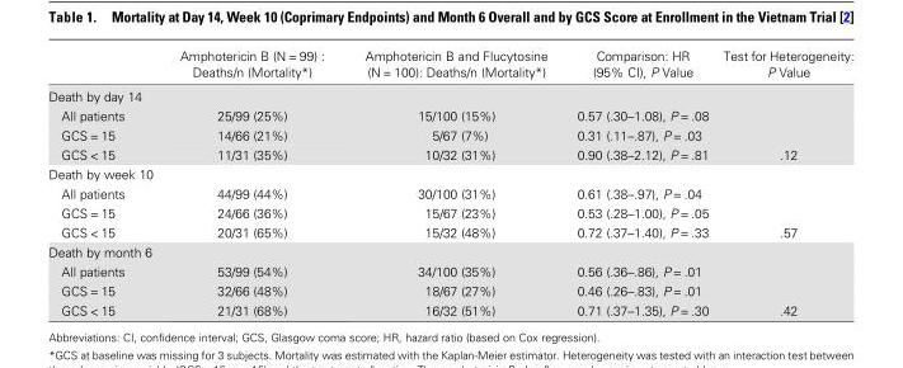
<table><thead><tr><td></td><td>Amphotericin B (N = 99) : Deaths/n (Mortality*)</td><td>Amphotericin B and Flucytosine (N = 100): Deaths/n (Mortality*)</td><td>Comparison: HR (95% CI), P Value</td><td>Test for Heterogeneity: P Value</td></tr></thead><tbody><tr><td colspan="5">Death by day 14</td></tr><tr><td>All patients</td><td>25/99 (25%)</td><td>15/100 (15%)</td><td>0.57 (.30–1.08), P = .08</td><td></td></tr><tr><td>GCS = 15</td><td>14/66 (21%)</td><td>5/67 (7%)</td><td>0.31 (.11–.87), P = .03</td><td></td></tr><tr><td>GCS &lt; 15</td><td>11/31 (35%)</td><td>10/32 (31%)</td><td>0.90 (.38–2.12), P = .81</td><td>.12</td></tr><tr><td colspan="5">Death by week 10</td></tr><tr><td>All patients</td><td>44/99 (44%)</td><td>30/100 (31%)</td><td>0.61 (.38–.97), P = .04</td><td></td></tr><tr><td>GCS = 15</td><td>24/66 (36%)</td><td>15/67 (23%)</td><td>0.53 (.28–1.00), P = .05</td><td></td></tr><tr><td>GCS &lt; 15</td><td>20/31 (65%)</td><td>15/32 (48%)</td><td>0.72 (.37–1.40), P = .33</td><td>.57</td></tr><tr><td colspan="5">Death by month 6</td></tr><tr><td>All patients</td><td>53/99 (54%)</td><td>34/100 (35%)</td><td>0.56 (.36–.86), P = .01</td><td></td></tr><tr><td>GCS = 15</td><td>32/66 (48%)</td><td>18/67 (27%)</td><td>0.46 (.26–.83), P = .01</td><td></td></tr><tr><td>GCS &lt; 15</td><td>21/31 (68%)</td><td>16/32 (51%)</td><td>0.71 (.37–1.35), P = .30</td><td>.42</td></tr></tbody></table>